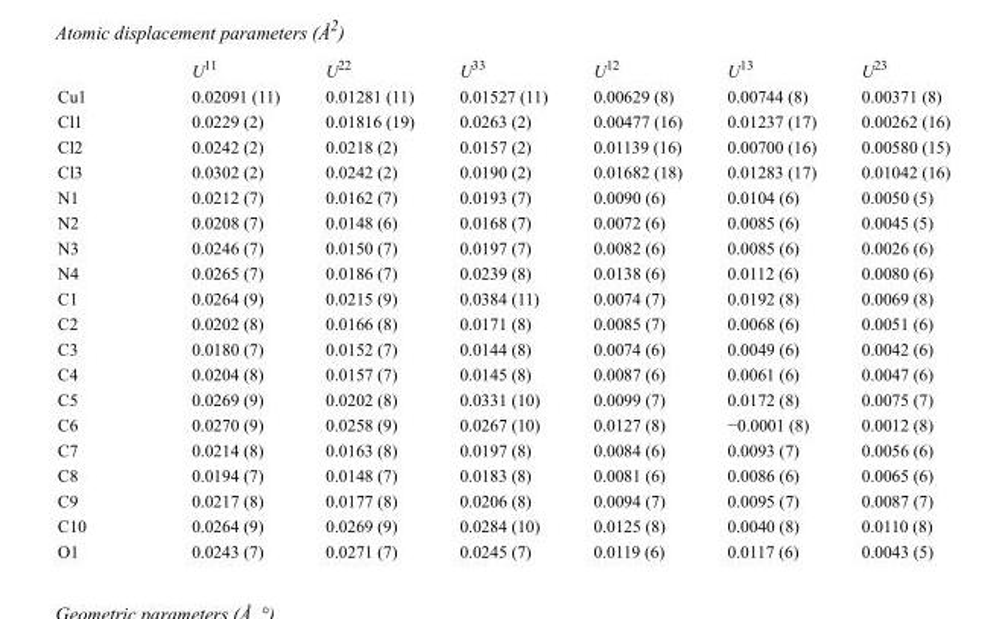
<table><thead><tr><td></td><td>U<sup>11</sup></td><td>U<sup>22</sup></td><td>U<sup>33</sup></td><td>U<sup>12</sup></td><td>U<sup>13</sup></td><td>U<sup>23</sup></td></tr></thead><tbody><tr><td>Cu1</td><td>0.02091 (11)</td><td>0.01281 (11)</td><td>0.01527 (11)</td><td>0.00629 (8)</td><td>0.00744 (8)</td><td>0.00371 (8)</td></tr><tr><td>Cl1</td><td>0.0229 (2)</td><td>0.01816 (19)</td><td>0.0263 (2)</td><td>0.00477 (16)</td><td>0.01237 (17)</td><td>0.00262 (16)</td></tr><tr><td>Cl2</td><td>0.0242 (2)</td><td>0.0218 (2)</td><td>0.0157 (2)</td><td>0.01139 (16)</td><td>0.00700 (16)</td><td>0.00580 (15)</td></tr><tr><td>Cl3</td><td>0.0302 (2)</td><td>0.0242 (2)</td><td>0.0190 (2)</td><td>0.01682 (18)</td><td>0.01283 (17)</td><td>0.01042 (16)</td></tr><tr><td>N1</td><td>0.0212 (7)</td><td>0.0162 (7)</td><td>0.0193 (7)</td><td>0.0090 (6)</td><td>0.0104 (6)</td><td>0.0050 (5)</td></tr><tr><td>N2</td><td>0.0208 (7)</td><td>0.0148 (6)</td><td>0.0168 (7)</td><td>0.0072 (6)</td><td>0.0085 (6)</td><td>0.0045 (5)</td></tr><tr><td>N3</td><td>0.0246 (7)</td><td>0.0150 (7)</td><td>0.0197 (7)</td><td>0.0082 (6)</td><td>0.0085 (6)</td><td>0.0026 (6)</td></tr><tr><td>N4</td><td>0.0265 (7)</td><td>0.0186 (7)</td><td>0.0239 (8)</td><td>0.0138 (6)</td><td>0.0112 (6)</td><td>0.0080 (6)</td></tr><tr><td>C1</td><td>0.0264 (9)</td><td>0.0215 (9)</td><td>0.0384 (11)</td><td>0.0074 (7)</td><td>0.0192 (8)</td><td>0.0069 (8)</td></tr><tr><td>C2</td><td>0.0202 (8)</td><td>0.0166 (8)</td><td>0.0171 (8)</td><td>0.0085 (7)</td><td>0.0068 (6)</td><td>0.0051 (6)</td></tr><tr><td>C3</td><td>0.0180 (7)</td><td>0.0152 (7)</td><td>0.0144 (8)</td><td>0.0074 (6)</td><td>0.0049 (6)</td><td>0.0042 (6)</td></tr><tr><td>C4</td><td>0.0204 (8)</td><td>0.0157 (7)</td><td>0.0145 (8)</td><td>0.0087 (6)</td><td>0.0061 (6)</td><td>0.0047 (6)</td></tr><tr><td>C5</td><td>0.0269 (9)</td><td>0.0202 (8)</td><td>0.0331 (10)</td><td>0.0099 (7)</td><td>0.0172 (8)</td><td>0.0075 (7)</td></tr><tr><td>C6</td><td>0.0270 (9)</td><td>0.0258 (9)</td><td>0.0267 (10)</td><td>0.0127 (8)</td><td>−0.0001 (8)</td><td>0.0012 (8)</td></tr><tr><td>C7</td><td>0.0214 (8)</td><td>0.0163 (8)</td><td>0.0197 (8)</td><td>0.0084 (6)</td><td>0.0093 (7)</td><td>0.0056 (6)</td></tr><tr><td>C8</td><td>0.0194 (7)</td><td>0.0148 (7)</td><td>0.0183 (8)</td><td>0.0081 (6)</td><td>0.0086 (6)</td><td>0.0065 (6)</td></tr><tr><td>C9</td><td>0.0217 (8)</td><td>0.0177 (8)</td><td>0.0206 (8)</td><td>0.0094 (7)</td><td>0.0095 (7)</td><td>0.0087 (7)</td></tr><tr><td>C10</td><td>0.0264 (9)</td><td>0.0269 (9)</td><td>0.0284 (10)</td><td>0.0125 (8)</td><td>0.0040 (8)</td><td>0.0110 (8)</td></tr><tr><td>O1</td><td>0.0243 (7)</td><td>0.0271 (7)</td><td>0.0245 (7)</td><td>0.0119 (6)</td><td>0.0117 (6)</td><td>0.0043 (5)</td></tr></tbody></table>